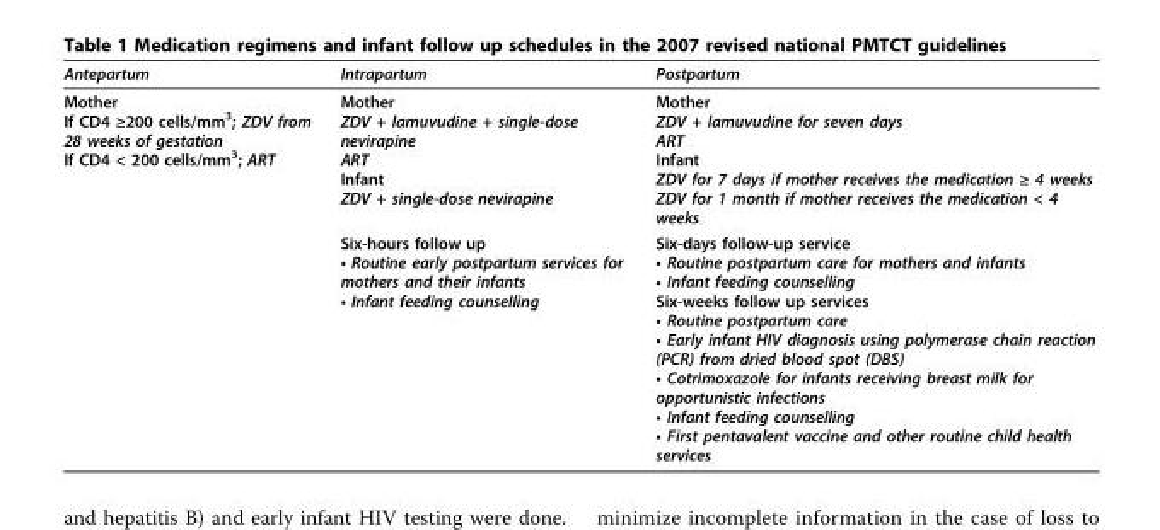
<table><thead><tr><td>Antepartum</td><td>Intrapartum</td><td>Postpartum</td></tr></thead><tbody><tr><td rowspan="2">Mother If CD4 ≥200 cells/mm<sup>3</sup>; ZDV from 28 weeks of gestation If CD4 &lt; 200 cells/mm<sup>3</sup>; ART</td><td>Mother ZDV + lamuvudine + single-dose nevirapine ART Infant ZDV + single-dose nevirapine</td><td>Mother ZDV + lamuvudine for seven days ART Infant ZDV for 7 days if mother receives the medication ≥ 4 weeks ZDV for 1 month if mother receives the medication &lt; 4 weeks</td></tr><tr><td>Six-hours follow up • Routine early postpartum services for mothers and their infants • Infant feeding counselling</td><td>Six-days follow-up service • Routine postpartum care for mothers and infants • Infant feeding counselling Six-weeks follow up services • Routine postpartum care • Early infant HIV diagnosis using polymerase chain reaction (PCR) from dried blood spot (DBS) • Cotrimoxazole for infants receiving breast milk for opportunistic infections • Infant feeding counselling • First pentavalent vaccine and other routine child health services</td></tr></tbody></table>